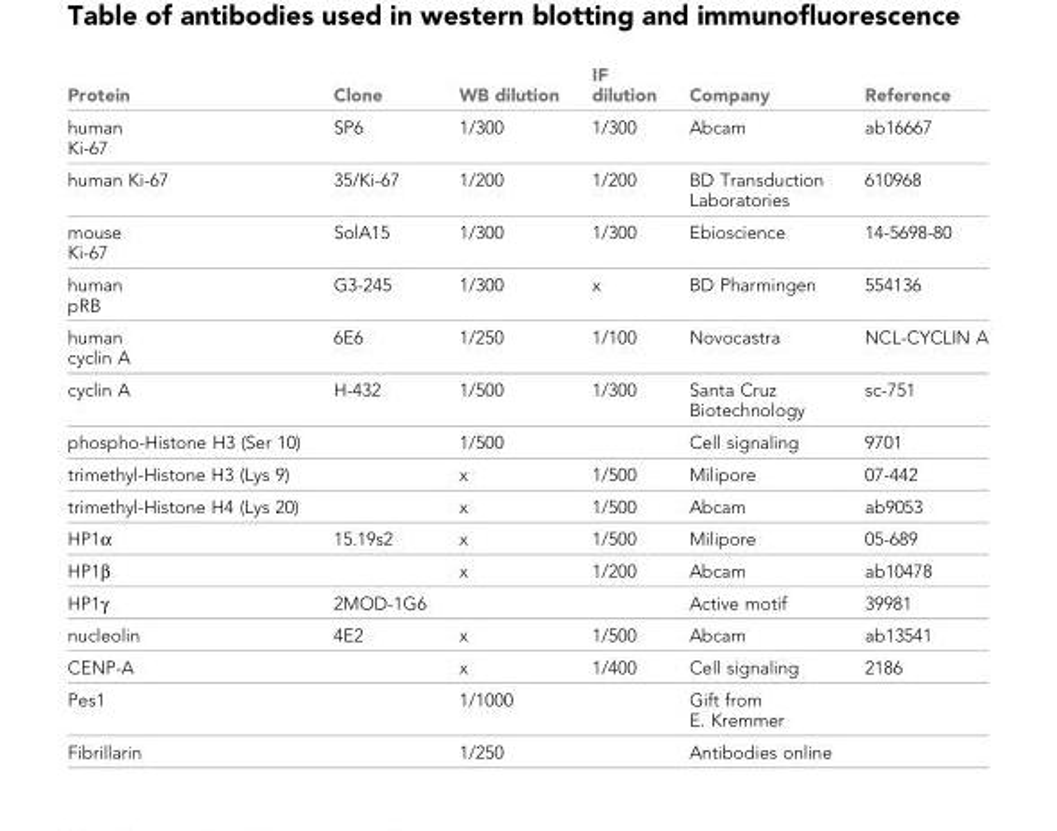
<table><thead><tr><td>Protein</td><td>Clone</td><td>WB dilution</td><td>IF dilution</td><td>Company</td><td>Reference</td></tr></thead><tbody><tr><td>human Ki-67</td><td>SP6</td><td>1/300</td><td>1/300</td><td>Abcam</td><td>ab16667</td></tr><tr><td>human Ki-67</td><td>35/Ki-67</td><td>1/200</td><td>1/200</td><td>BD Transduction Laboratories</td><td>610968</td></tr><tr><td>mouse Ki-67</td><td>SolA15</td><td>1/300</td><td>1/300</td><td>Ebioscience</td><td>14-5698-80</td></tr><tr><td>human pRB</td><td>G3-245</td><td>1/300</td><td>x</td><td>BD Pharmingen</td><td>554136</td></tr><tr><td>human cyclin A</td><td>6E6</td><td>1/250</td><td>1/100</td><td>Novocastra</td><td>NCL-CYCLIN A</td></tr><tr><td>cyclin A</td><td>H-432</td><td>1/500</td><td>1/300</td><td>Santa Cruz Biotechnology</td><td>sc-751</td></tr><tr><td>phospho-Histone H3 (Ser 10)</td><td></td><td>1/500</td><td></td><td>Cell signaling</td><td>9701</td></tr><tr><td>trimethyl-Histone H3 (Lys 9)</td><td></td><td>x</td><td>1/500</td><td>Milipore</td><td>07-442</td></tr><tr><td>trimethyl-Histone H4 (Lys 20)</td><td></td><td>x</td><td>1/500</td><td>Abcam</td><td>ab9053</td></tr><tr><td>HP1α</td><td>15.19s2</td><td>x</td><td>1/500</td><td>Milipore</td><td>05-689</td></tr><tr><td>HP1β</td><td></td><td>x</td><td>1/200</td><td>Abcam</td><td>ab10478</td></tr><tr><td>HP1γ</td><td>2MOD-1G6</td><td></td><td></td><td>Active motif</td><td>39981</td></tr><tr><td>nucleolin</td><td>4E2</td><td>x</td><td>1/500</td><td>Abcam</td><td>ab13541</td></tr><tr><td>CENP-A</td><td></td><td>x</td><td>1/400</td><td>Cell signaling</td><td>2186</td></tr><tr><td>Pes1</td><td></td><td>1/1000</td><td></td><td>Gift from E. Kremmer</td><td></td></tr><tr><td>Fibrillarin</td><td></td><td>1/250</td><td></td><td>Antibodies online</td><td></td></tr></tbody></table>